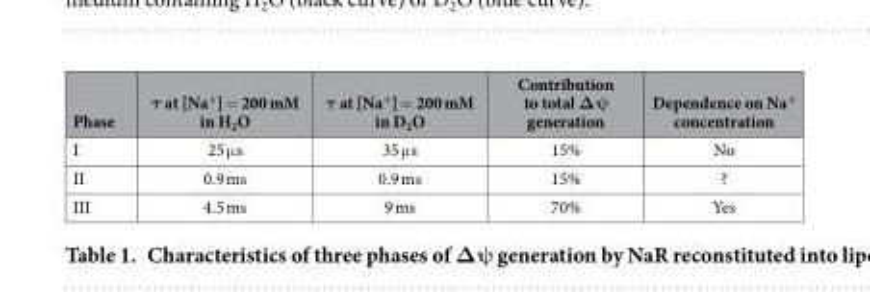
<table><thead><tr><td>Phase</td><td>τ at [Na<sup>+</sup>] = 200 mM in H<sub>2</sub>O</td><td>τ at [Na<sup>+</sup>] = 200 mM in D<sub>2</sub>O</td><td>Contribution to total Δψ generation</td><td>Dependence on Na<sup>+</sup> concentration</td></tr></thead><tbody><tr><td>I</td><td>25 μ s</td><td>35 μ s</td><td>15%</td><td>No</td></tr><tr><td>II</td><td>0.9 ms</td><td>0.9 ms</td><td>15%</td><td>?</td></tr><tr><td>III</td><td>4.5 ms</td><td>9 ms</td><td>70%</td><td>Yes</td></tr></tbody></table>